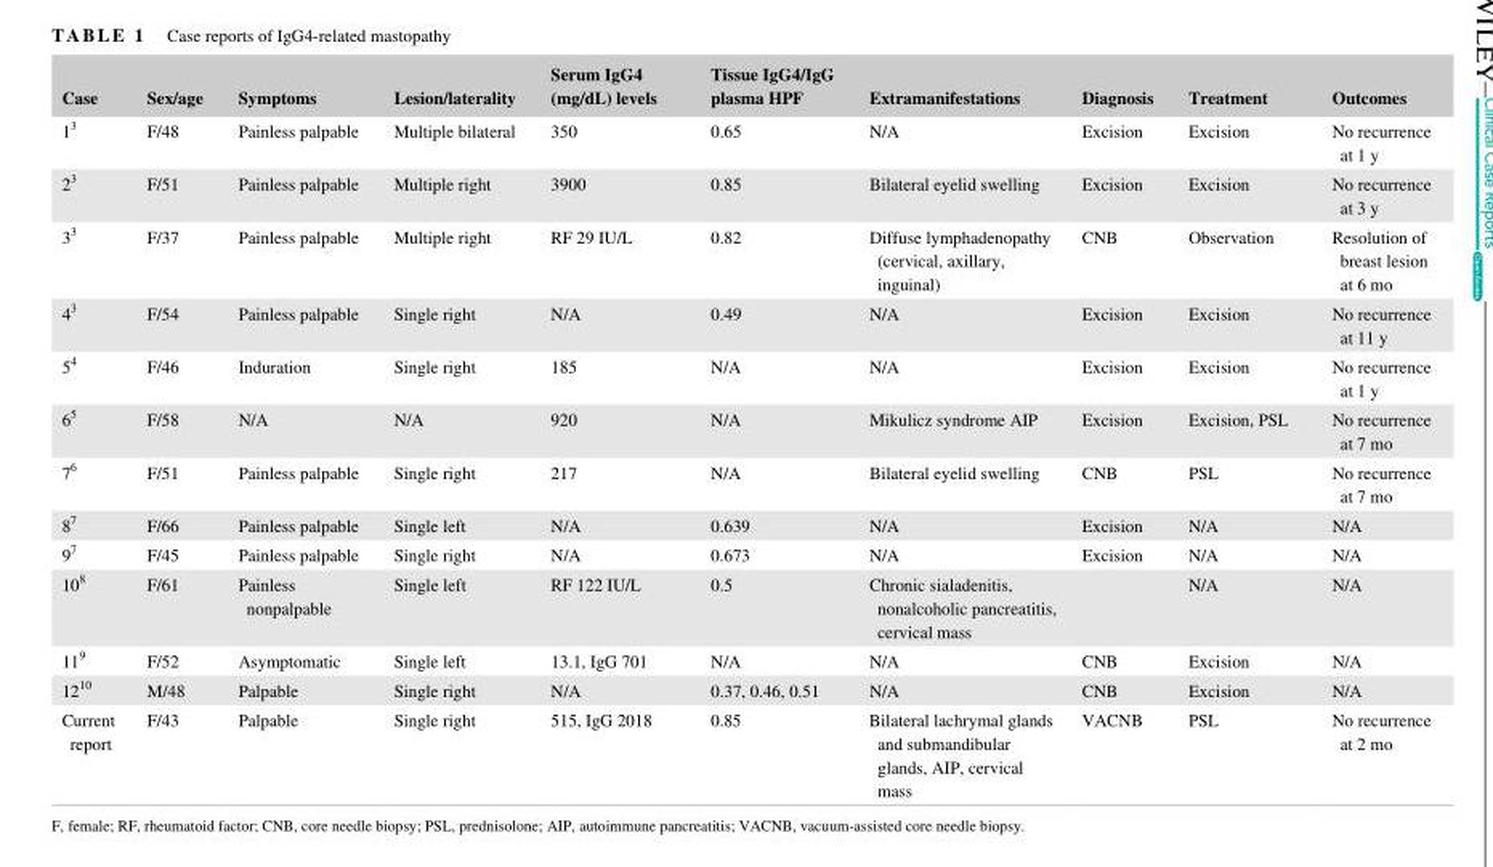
<table><thead><tr><td>Case</td><td>Sex/age</td><td>Symptoms</td><td>Lesion/laterality</td><td>Serum IgG4 (mg/dL) levels</td><td>Tissue IgG4/IgG plasma HPF</td><td>Extramanifestations</td><td>Diagnosis</td><td>Treatment</td><td>Outcomes</td></tr></thead><tbody><tr><td>1<sup>3</sup></td><td>F/48</td><td>Painless palpable</td><td>Multiple bilateral</td><td>350</td><td>0.65</td><td>N/A</td><td>Excision</td><td>Excision</td><td>No recurrence at 1 y</td></tr><tr><td>2<sup>3</sup></td><td>F/51</td><td>Painless palpable</td><td>Multiple right</td><td>3900</td><td>0.85</td><td>Bilateral eyelid swelling</td><td>Excision</td><td>Excision</td><td>No recurrence at 3 y</td></tr><tr><td>3<sup>3</sup></td><td>F/37</td><td>Painless palpable</td><td>Multiple right</td><td>RF 29 IU/L</td><td>0.82</td><td>Diffuse lymphadenopathy (cervical, axillary, inguinal)</td><td>CNB</td><td>Observation</td><td>Resolution of breast lesion at 6 mo</td></tr><tr><td>4<sup>3</sup></td><td>F/54</td><td>Painless palpable</td><td>Single right</td><td>N/A</td><td>0.49</td><td>N/A</td><td>Excision</td><td>Excision</td><td>No recurrence at 11 y</td></tr><tr><td>5<sup>4</sup></td><td>F/46</td><td>Induration</td><td>Single right</td><td>185</td><td>N/A</td><td>N/A</td><td>Excision</td><td>Excision</td><td>No recurrence at 1 y</td></tr><tr><td>6<sup>5</sup></td><td>F/58</td><td>N/A</td><td>N/A</td><td>920</td><td>N/A</td><td>Mikulicz syndrome AIP</td><td>Excision</td><td>Excision,PSL</td><td>No recurrence at 7 mo</td></tr><tr><td>7<sup>6</sup></td><td>F/51</td><td>Painless palpable</td><td>Single right</td><td>217</td><td>N/A</td><td>Bilateral eyelid swelling</td><td>CNB</td><td>PSL</td><td>No recurrence at 7 mo</td></tr><tr><td>8<sup>7</sup></td><td>F/66</td><td>Painless palpable</td><td>Single left</td><td>N/A</td><td>0.639</td><td>N/A</td><td>Excision</td><td>N/A</td><td>N/A</td></tr><tr><td>9<sup>7</sup></td><td>F/45</td><td>Painless palpable</td><td>Single right</td><td>N/A</td><td>0.673</td><td>N/A</td><td>Excision</td><td>N/A</td><td>N/A</td></tr><tr><td>10<sup>8</sup></td><td>F/61</td><td>Painless nonpalpable</td><td>Single left</td><td>RF 122 IU/L</td><td>0.5</td><td>Chronic sialadenitis, nonalcoholic pancreatitis, cervical mass</td><td></td><td>N/A</td><td>N/A</td></tr><tr><td>11<sup>9</sup></td><td>F/52</td><td>Asymptomatic</td><td>Single left</td><td>13.1, IgG 701</td><td>N/A</td><td>N/A</td><td>CNB</td><td>Excision</td><td>N/A</td></tr><tr><td>12<sup>10</sup></td><td>M/48</td><td>Palpable</td><td>Single right</td><td>N/A</td><td>0.37, 0.46, 0.51</td><td>N/A</td><td>CNB</td><td>Excision</td><td>N/A</td></tr><tr><td>Current report</td><td>F/43</td><td>Palpable</td><td>Single right</td><td>515, IgG 2018</td><td>0.85</td><td>Bilateral lachrymal glands and submandibular glands, AIP, cervical mass</td><td>VACNB</td><td>PSL</td><td>No recurrence at 2 mo</td></tr></tbody></table>